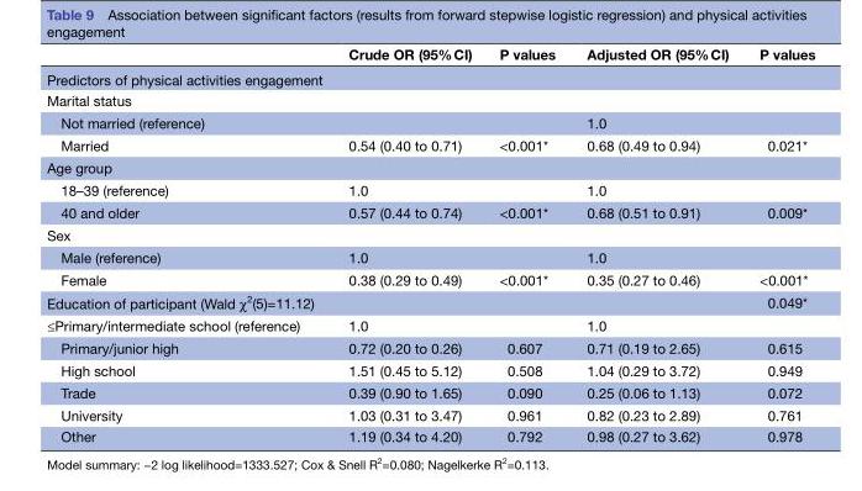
<table><thead><tr><td></td><td>Crude OR (95% CI)</td><td>P values</td><td>Adjusted OR (95% CI)</td><td>P values</td></tr></thead><tbody><tr><td colspan="5">Predictors of physical activities engagement</td></tr><tr><td colspan="5">Marital status</td></tr><tr><td>Not married (reference)</td><td></td><td></td><td>1.0</td><td></td></tr><tr><td>Married</td><td>0.54 (0.40 to 0.71)</td><td>&lt;0.001*</td><td>0.68 (0.49 to 0.94)</td><td>0.021*</td></tr><tr><td colspan="5">Age group</td></tr><tr><td>18–39 (reference)</td><td>1.0</td><td></td><td>1.0</td><td></td></tr><tr><td>40 and older</td><td>0.57 (0.44 to 0.74)</td><td>&lt;0.001*</td><td>0.68 (0.51 to 0.91)</td><td>0.009*</td></tr><tr><td colspan="5">Sex</td></tr><tr><td>Male (reference)</td><td>1.0</td><td></td><td>1.0</td><td></td></tr><tr><td>Female</td><td>0.38 (0.29 to 0.49)</td><td>&lt;0.001*</td><td>0.35 (0.27 to 0.46)</td><td>&lt;0.001*</td></tr><tr><td colspan="4">Education of participant (Wald χ<sup>2</sup>(5)=11.12)</td><td>0.049*</td></tr><tr><td>≤Primary/intermediate school (reference)</td><td>1.0</td><td></td><td>1.0</td><td></td></tr><tr><td>Primary/junior high</td><td>0.72 (0.20 to 0.26)</td><td>0.607</td><td>0.71 (0.19 to 2.65)</td><td>0.615</td></tr><tr><td>High school</td><td>1.51 (0.45 to 5.12)</td><td>0.508</td><td>1.04 (0.29 to 3.72)</td><td>0.949</td></tr><tr><td>Trade</td><td>0.39 (0.90 to 1.65)</td><td>0.090</td><td>0.25 (0.06 to 1.13)</td><td>0.072</td></tr><tr><td>University</td><td>1.03 (0.31 to 3.47)</td><td>0.961</td><td>0.82 (0.23 to 2.89)</td><td>0.761</td></tr><tr><td>Other</td><td>1.19 (0.34 to 4.20)</td><td>0.792</td><td>0.98 (0.27 to 3.62)</td><td>0.978</td></tr></tbody></table>